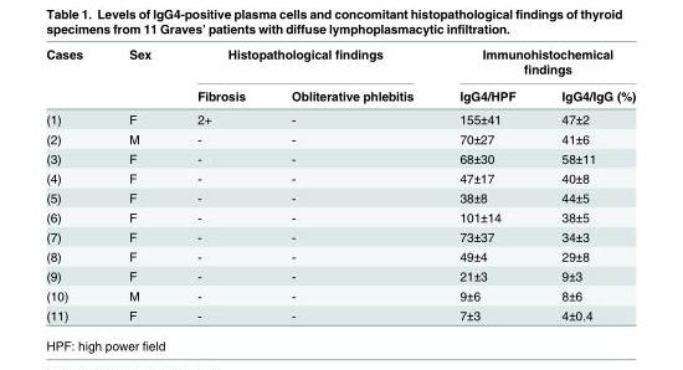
<table><thead><tr><td rowspan="2">Cases</td><td rowspan="2">Sex</td><td colspan="2">Histopathological findings</td><td colspan="2">Immunohistochemical findings</td></tr><tr><td>Fibrosis</td><td>Obliterative phlebitis</td><td>IgG4/HPF</td><td>IgG4/IgG (%)</td></tr></thead><tbody><tr><td>(1)</td><td>F</td><td>2+</td><td>-</td><td>155±41</td><td>47±2</td></tr><tr><td>(2)</td><td>M</td><td>-</td><td>-</td><td>70±27</td><td>41±6</td></tr><tr><td>(3)</td><td>F</td><td>-</td><td>-</td><td>68±30</td><td>58±11</td></tr><tr><td>(4)</td><td>F</td><td>-</td><td>-</td><td>47±17</td><td>40±8</td></tr><tr><td>(5)</td><td>F</td><td>-</td><td>-</td><td>38±8</td><td>44±5</td></tr><tr><td>(6)</td><td>F</td><td>-</td><td>-</td><td>101±14</td><td>38±5</td></tr><tr><td>(7)</td><td>F</td><td>-</td><td>-</td><td>73±37</td><td>34±3</td></tr><tr><td>(8)</td><td>F</td><td>-</td><td>-</td><td>49±4</td><td>29±8</td></tr><tr><td>(9)</td><td>F</td><td>-</td><td>-</td><td>21±3</td><td>9±3</td></tr><tr><td>(10)</td><td>M</td><td>-</td><td>-</td><td>9±6</td><td>8±6</td></tr><tr><td>(11)</td><td>F</td><td>-</td><td>-</td><td>7±3</td><td>4±0.4</td></tr></tbody></table>